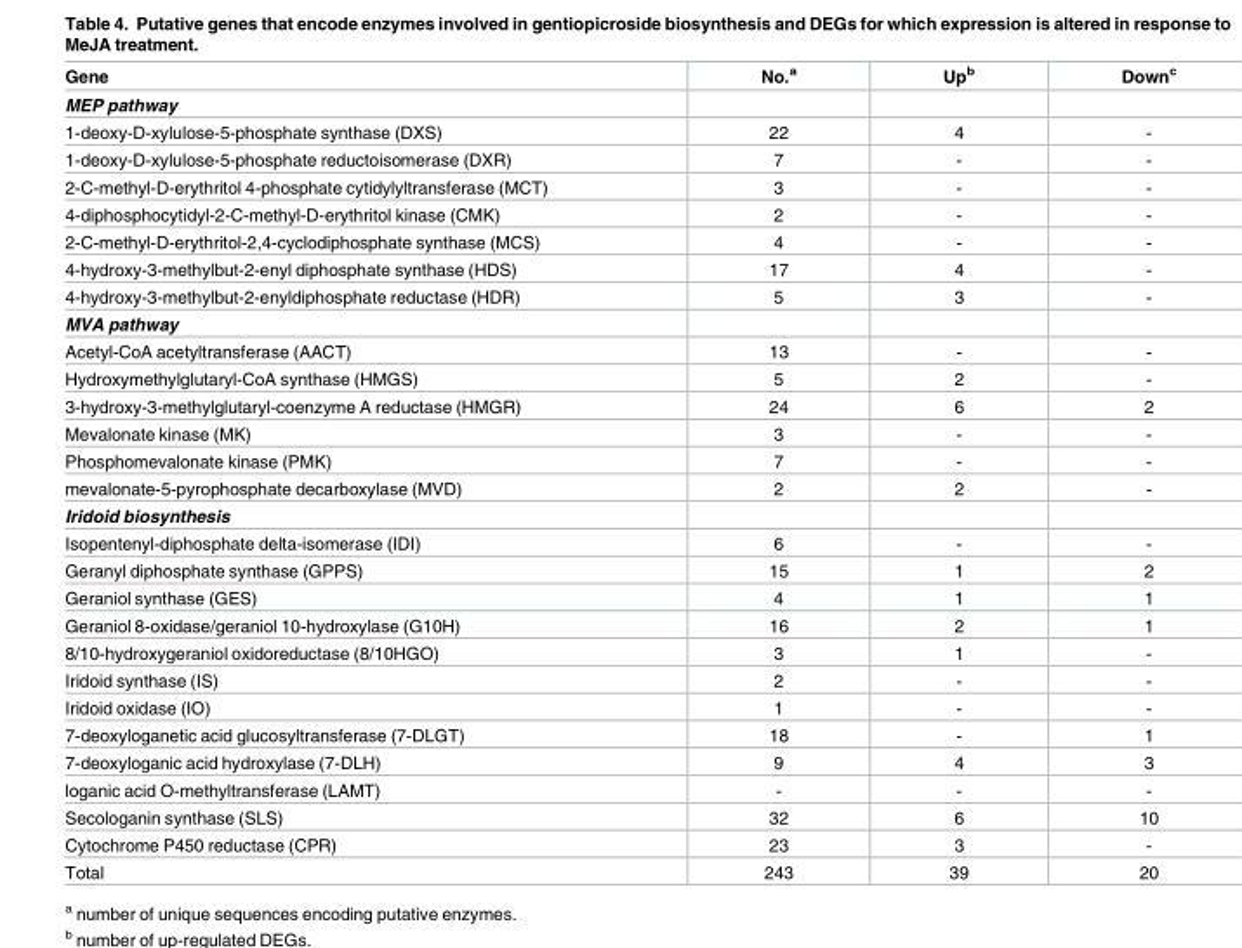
<table><thead><tr><td>Gene</td><td>No.<sup>a</sup></td><td>Up<sup>b</sup></td><td>Down<sup>c</sup></td></tr></thead><tbody><tr><td colspan="4">MEP pathway</td></tr><tr><td>1-deoxy-D-xylulose-5-phosphate synthase (DXS)</td><td>22</td><td>4</td><td>-</td></tr><tr><td>1-deoxy-D-xylulose-5-phosphate reductoisomerase (DXR)</td><td>7</td><td>-</td><td>-</td></tr><tr><td>2-C-methyl-D-erythritol 4-phosphate cytidylyltransferase (MCT)</td><td>3</td><td>-</td><td>-</td></tr><tr><td>4-diphosphocytidyl-2-C-methyl-D-erythritol kinase (CMK)</td><td>2</td><td>-</td><td>-</td></tr><tr><td>2-C-methyl-D-erythritol-2,4-cyclodiphosphate synthase (MCS)</td><td>4</td><td>-</td><td>-</td></tr><tr><td>4-hydroxy-3-methylbut-2-enyl diphosphate synthase (HDS)</td><td>17</td><td>4</td><td>-</td></tr><tr><td>4-hydroxy-3-methylbut-2-enyldiphosphate reductase (HDR)</td><td>5</td><td>3</td><td>-</td></tr><tr><td colspan="4">MVA pathway</td></tr><tr><td>Acetyl-CoA acetyltransferase (AACT)</td><td>13</td><td>-</td><td>-</td></tr><tr><td>Hydroxymethylglutaryl-CoA synthase (HMGS)</td><td>5</td><td>2</td><td>-</td></tr><tr><td>3-hydroxy-3-methylglutaryl-coenzyme A reductase (HMGR)</td><td>24</td><td>6</td><td>2</td></tr><tr><td>Mevalonate kinase (MK)</td><td>3</td><td>-</td><td>-</td></tr><tr><td>Phosphomevalonate kinase (PMK)</td><td>7</td><td>-</td><td>-</td></tr><tr><td>mevalonate-5-pyrophosphate decarboxylase (MVD)</td><td>2</td><td>2</td><td>-</td></tr><tr><td colspan="4">Iridoid biosynthesis</td></tr><tr><td>Isopentenyl-diphosphate delta-isomerase (IDI)</td><td>6</td><td>-</td><td>-</td></tr><tr><td>Geranyl diphosphate synthase (GPPS)</td><td>15</td><td>1</td><td>2</td></tr><tr><td>Geraniol synthase (GES)</td><td>4</td><td>1</td><td>1</td></tr><tr><td>Geraniol 8-oxidase/geraniol 10-hydroxylase (G10H)</td><td>16</td><td>2</td><td>1</td></tr><tr><td>8/10-hydroxygeraniol oxidoreductase (8/10HGO)</td><td>3</td><td>1</td><td>-</td></tr><tr><td>Iridoid synthase (IS)</td><td>2</td><td>-</td><td>-</td></tr><tr><td>Iridoid oxidase (IO)</td><td>1</td><td>-</td><td>-</td></tr><tr><td>7-deoxyloganetic acid glucosyltransferase (7-DLGT)</td><td>18</td><td>-</td><td>1</td></tr><tr><td>7-deoxyloganic acid hydroxylase (7-DLH)</td><td>9</td><td>4</td><td>3</td></tr><tr><td>loganic acid O-methyltransferase (LAMT)</td><td>-</td><td>-</td><td>-</td></tr><tr><td>Secologanin synthase (SLS)</td><td>32</td><td>6</td><td>10</td></tr><tr><td>Cytochrome P450 reductase (CPR)</td><td>23</td><td>3</td><td>-</td></tr><tr><td>Total</td><td>243</td><td>39</td><td>20</td></tr></tbody></table>